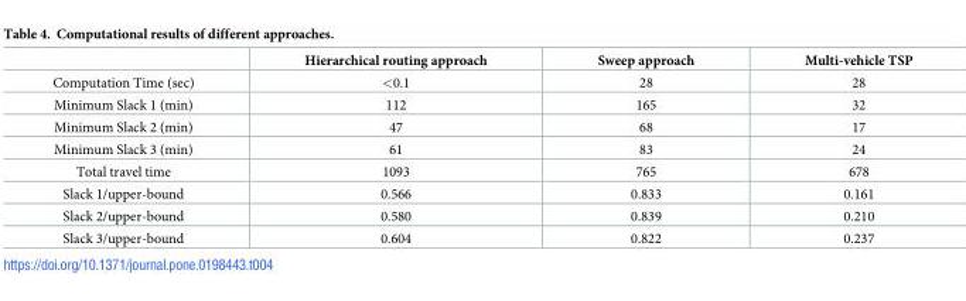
<table><thead><tr><td></td><td>Hierarchical routing approach</td><td>Sweep approach</td><td>Multi-vehicle TSP</td></tr></thead><tbody><tr><td>Computation Time (sec)</td><td>&lt;0.1</td><td>28</td><td>28</td></tr><tr><td>Minimum Slack 1 (min)</td><td>112</td><td>165</td><td>32</td></tr><tr><td>Minimum Slack 2 (min)</td><td>47</td><td>68</td><td>17</td></tr><tr><td>Minimum Slack 3 (min)</td><td>61</td><td>83</td><td>24</td></tr><tr><td>Total travel time</td><td>1093</td><td>765</td><td>678</td></tr><tr><td>Slack 1/upper-bound</td><td>0.566</td><td>0.833</td><td>0.161</td></tr><tr><td>Slack 2/upper-bound</td><td>0.580</td><td>0.839</td><td>0.210</td></tr><tr><td>Slack 3/upper-bound</td><td>0.604</td><td>0.822</td><td>0.237</td></tr></tbody></table>